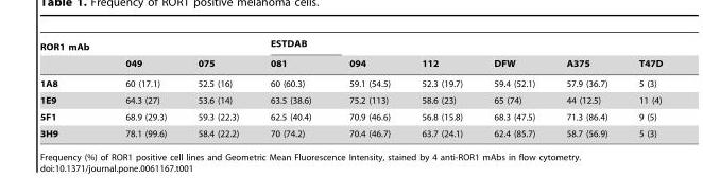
<table><thead><tr><td rowspan="2">ROR1 mAb</td><td rowspan="2">049</td><td rowspan="2">075</td><td rowspan="2">ESTDAB 081</td><td rowspan="2">094</td><td rowspan="2">112</td><td rowspan="2">DFW</td><td rowspan="2">A375</td><td rowspan="2">T47D</td></tr><tr></tr></thead><tbody><tr><td>1A8</td><td>60 (17.1)</td><td>52.5 (16)</td><td>60 (60.3)</td><td>59.1 (54.5)</td><td>52.3 (19.7)</td><td>59.4 (52.1)</td><td>57.9 (36.7)</td><td>5 (3)</td></tr><tr><td>1E9</td><td>64.3 (27)</td><td>53.6 (14)</td><td>63.5 (38.6)</td><td>75.2 (113)</td><td>58.6 (23)</td><td>65 (74)</td><td>44 (12.5)</td><td>11 (4)</td></tr><tr><td>5F1</td><td>68.9 (29.3)</td><td>59.3 (22.3)</td><td>62.5 (40.4)</td><td>70.9 (46.6)</td><td>56.8 (15.8)</td><td>68.3 (47.5)</td><td>71.3 (86.4)</td><td>9 (5)</td></tr><tr><td>3H9</td><td>78.1 (99.6)</td><td>58.4 (22.2)</td><td>70 (74.2)</td><td>70.4 (46.7)</td><td>63.7 (24.1)</td><td>62.4 (85.7)</td><td>58.7 (56.9)</td><td>5 (3)</td></tr></tbody></table>